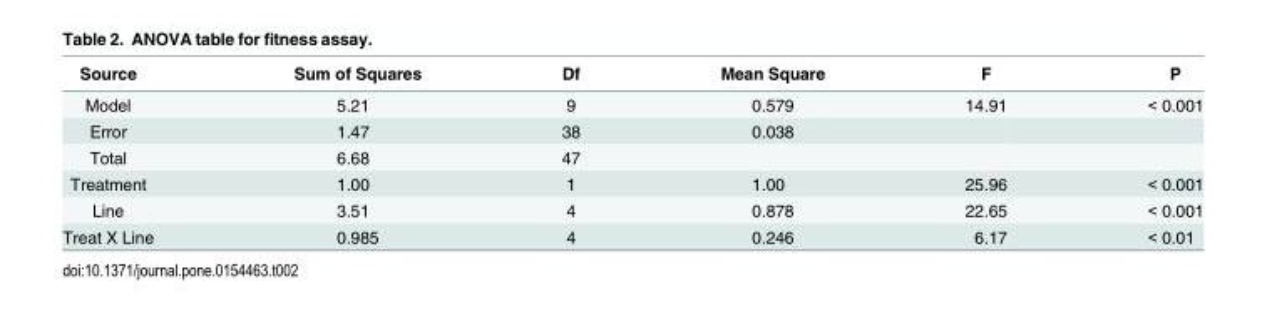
<table><thead><tr><td>Source</td><td>Sum of Squares</td><td>Df</td><td>Mean Square</td><td>F</td><td>P</td></tr></thead><tbody><tr><td>Model</td><td>5.21</td><td>9</td><td>0.579</td><td>14.91</td><td>&lt; 0.001</td></tr><tr><td>Error</td><td>1.47</td><td>38</td><td>0.038</td><td></td><td></td></tr><tr><td>Total</td><td>6.68</td><td>47</td><td></td><td></td><td></td></tr><tr><td>Treatment</td><td>1.00</td><td>1</td><td>1.00</td><td>25.96</td><td>&lt; 0.001</td></tr><tr><td>Line</td><td>3.51</td><td>4</td><td>0.878</td><td>22.65</td><td>&lt; 0.001</td></tr><tr><td>Treat X Line</td><td>0.985</td><td>4</td><td>0.246</td><td>6.17</td><td>&lt; 0.01</td></tr></tbody></table>